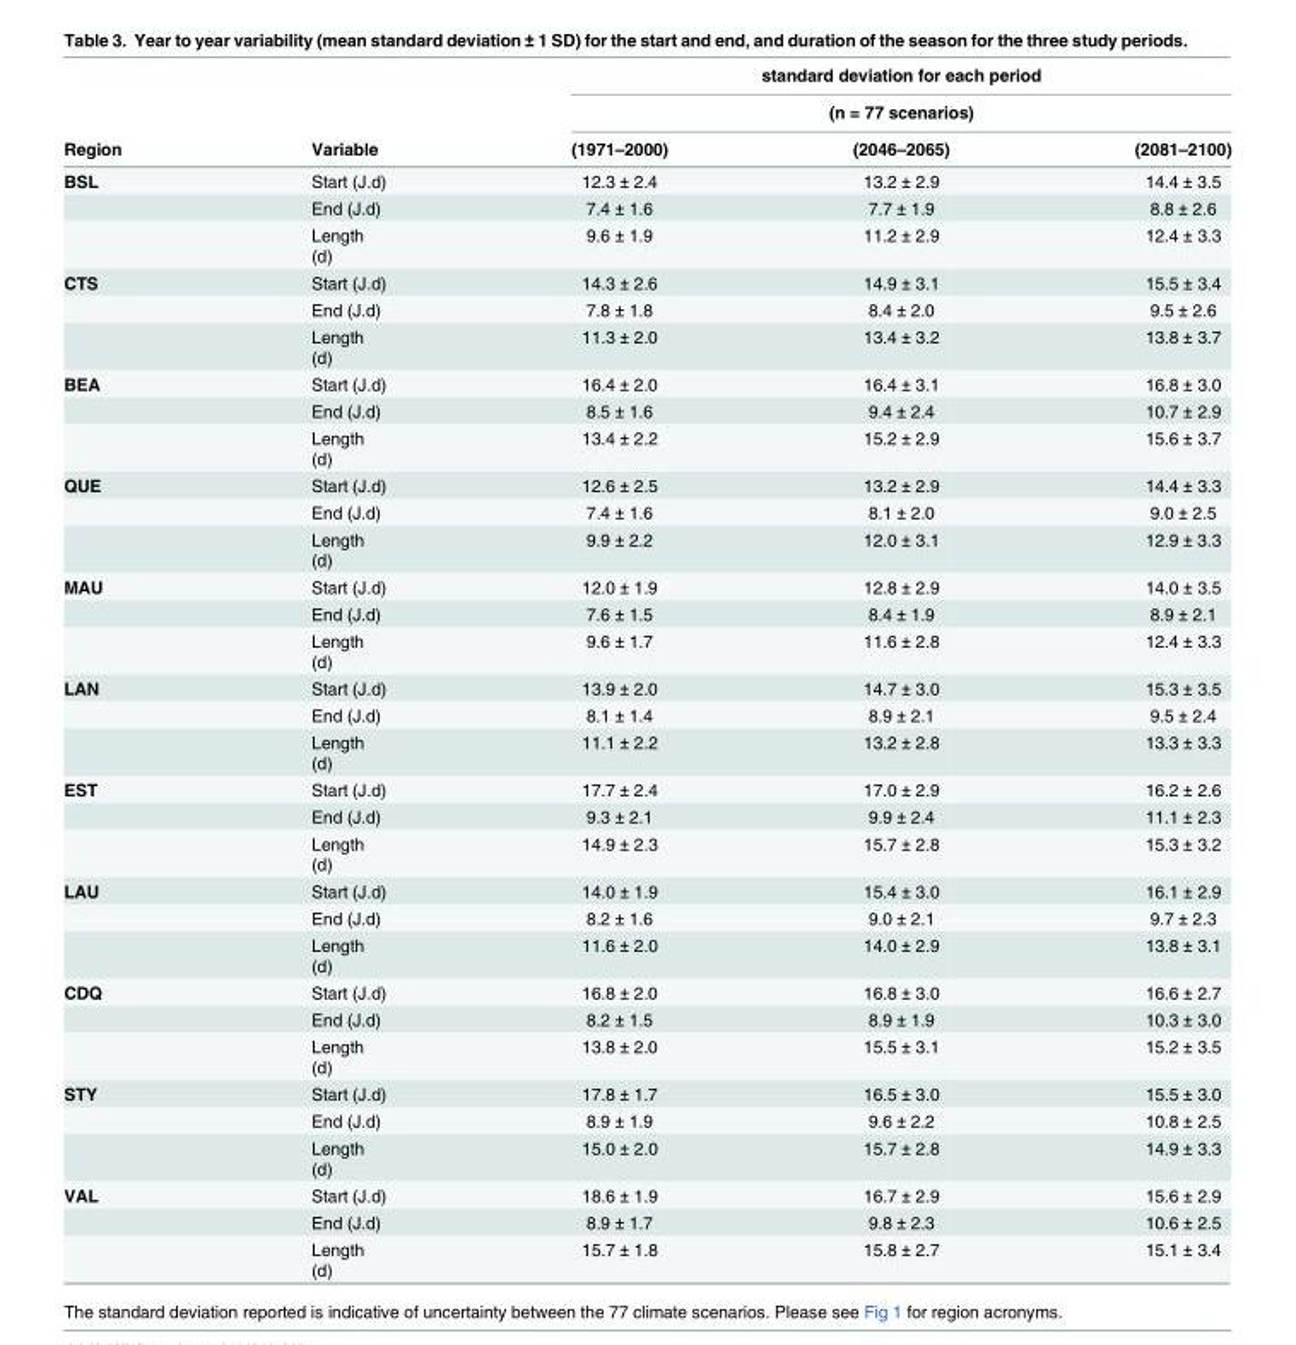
<table><thead><tr><td rowspan="3">Region</td><td rowspan="3">Variable</td><td rowspan="2" colspan="3">standard deviation for each period (n = 77 scenarios)</td></tr><tr></tr><tr><td>(1971–2000)</td><td>(2046–2065)</td><td>(2081–2100)</td></tr></thead><tbody><tr><td rowspan="3">BSL</td><td>Start (J.d)</td><td>12.3 ± 2.4</td><td>13.2 ± 2.9</td><td>14.4 ± 3.5</td></tr><tr><td>End (J.d)</td><td>7.4 ± 1.6</td><td>7.7 ± 1.9</td><td>8.8 ± 2.6</td></tr><tr><td>Length (d)</td><td>9.6 ± 1.9</td><td>11.2 ± 2.9</td><td>12.4 ± 3.3</td></tr><tr><td rowspan="3">CTS</td><td>Start (J.d)</td><td>14.3 ± 2.6</td><td>14.9 ± 3.1</td><td>15.5 ± 3.4</td></tr><tr><td>End (J.d)</td><td>7.8 ± 1.8</td><td>8.4 ± 2.0</td><td>9.5 ± 2.6</td></tr><tr><td>Length (d)</td><td>11.3 ± 2.0</td><td>13.4 ± 3.2</td><td>13.8 ± 3.7</td></tr><tr><td rowspan="3">BEA</td><td>Start (J.d)</td><td>16.4 ± 2.0</td><td>16.4 ± 3.1</td><td>16.8 ± 3.0</td></tr><tr><td>End (J.d)</td><td>8.5 ± 1.6</td><td>9.4 ± 2.4</td><td>10.7 ± 2.9</td></tr><tr><td>Length (d)</td><td>13.4 ± 2.2</td><td>15.2 ± 2.9</td><td>15.6 ± 3.7</td></tr><tr><td rowspan="3">QUE</td><td>Start (J.d)</td><td>12.6 ± 2.5</td><td>13.2 ± 2.9</td><td>14.4 ± 3.3</td></tr><tr><td>End (J.d)</td><td>7.4 ± 1.6</td><td>8.1 ± 2.0</td><td>9.0 ± 2.5</td></tr><tr><td>Length (d)</td><td>9.9 ± 2.2</td><td>12.0 ± 3.1</td><td>12.9 ± 3.3</td></tr><tr><td rowspan="3">MAU</td><td>Start (J.d)</td><td>12.0 ± 1.9</td><td>12.8 ± 2.9</td><td>14.0 ± 3.5</td></tr><tr><td>End (J.d)</td><td>7.6 ± 1.5</td><td>8.4 ± 1.9</td><td>8.9 ± 2.1</td></tr><tr><td>Length (d)</td><td>9.6 ± 1.7</td><td>11.6 ± 2.8</td><td>12.4 ± 3.3</td></tr><tr><td rowspan="3">LAN</td><td>Start (J.d)</td><td>13.9 ± 2.0</td><td>14.7 ± 3.0</td><td>15.3 ± 3.5</td></tr><tr><td>End (J.d)</td><td>8.1 ± 1.4</td><td>8.9 ± 2.1</td><td>9.5 ± 2.4</td></tr><tr><td>Length (d)</td><td>11.1 ± 2.2</td><td>13.2 ± 2.8</td><td>13.3 ± 3.3</td></tr><tr><td rowspan="3">EST</td><td>Start (J.d)</td><td>17.7 ± 2.4</td><td>17.0 ± 2.9</td><td>16.2 ± 2.6</td></tr><tr><td>End (J.d)</td><td>9.3 ± 2.1</td><td>9.9 ± 2.4</td><td>11.1 ± 2.3</td></tr><tr><td>Length (d)</td><td>14.9 ± 2.3</td><td>15.7 ± 2.8</td><td>15.3 ± 3.2</td></tr><tr><td rowspan="3">LAU</td><td>Start (J.d)</td><td>14.0 ± 1.9</td><td>15.4 ± 3.0</td><td>16.1 ± 2.9</td></tr><tr><td>End (J.d)</td><td>8.2 ± 1.6</td><td>9.0 ± 2.1</td><td>9.7 ± 2.3</td></tr><tr><td>Length (d)</td><td>11.6 ± 2.0</td><td>14.0 ± 2.9</td><td>13.8 ± 3.1</td></tr><tr><td rowspan="3">CDQ</td><td>Start (J.d)</td><td>16.8 ± 2.0</td><td>16.8 ± 3.0</td><td>16.6 ± 2.7</td></tr><tr><td>End (J.d)</td><td>8.2 ± 1.5</td><td>8.9 ± 1.9</td><td>10.3 ± 3.0</td></tr><tr><td>Length (d)</td><td>13.8 ± 2.0</td><td>15.5 ± 3.1</td><td>15.2 ± 3.5</td></tr><tr><td rowspan="3">STY</td><td>Start (J.d)</td><td>17.8 ± 1.7</td><td>16.5 ± 3.0</td><td>15.5 ± 3.0</td></tr><tr><td>End (J.d)</td><td>8.9 ± 1.9</td><td>9.6 ± 2.2</td><td>10.8 ± 2.5</td></tr><tr><td>Length (d)</td><td>15.0 ± 2.0</td><td>15.7 ± 2.8</td><td>14.9 ± 3.3</td></tr><tr><td rowspan="3">VAL</td><td>Start (J.d)</td><td>18.6 ± 1.9</td><td>16.7 ± 2.9</td><td>15.6 ± 2.9</td></tr><tr><td>End (J.d)</td><td>8.9 ± 1.7</td><td>9.8 ± 2.3</td><td>10.6 ± 2.5</td></tr><tr><td>Length (d)</td><td>15.7 ± 1.8</td><td>15.8 ± 2.7</td><td>15.1 ± 3.4</td></tr></tbody></table>